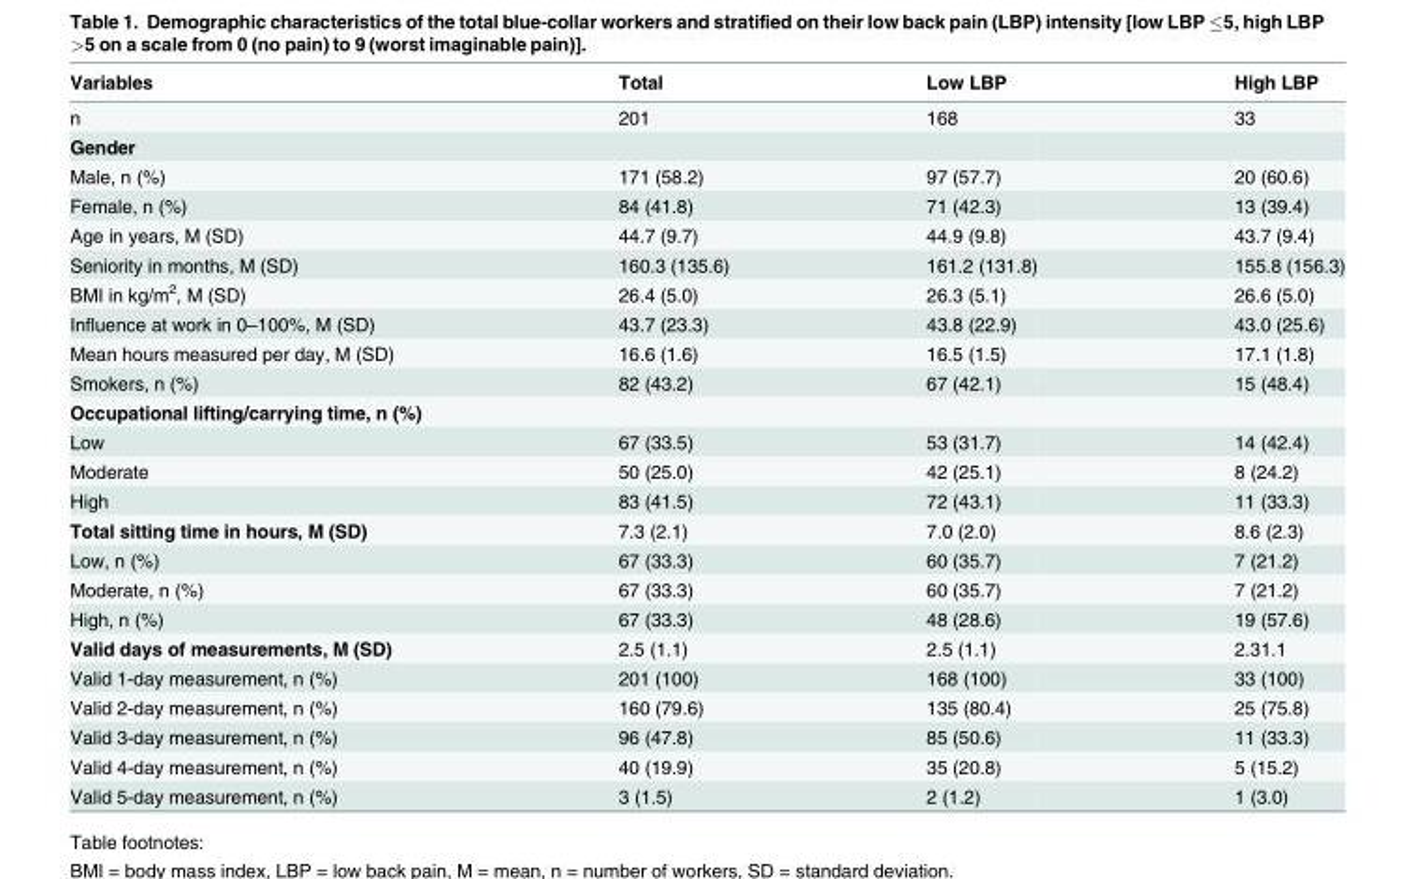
<table><thead><tr><td>Variables</td><td>Total</td><td>Low LBP</td><td>High LBP</td></tr></thead><tbody><tr><td>n</td><td>201</td><td>168</td><td>33</td></tr><tr><td colspan="4">Gender</td></tr><tr><td>Male, n (%)</td><td>171 (58.2)</td><td>97 (57.7)</td><td>20 (60.6)</td></tr><tr><td>Female, n (%)</td><td>84 (41.8)</td><td>71 (42.3)</td><td>13 (39.4)</td></tr><tr><td>Age in years, M (SD)</td><td>44.7 (9.7)</td><td>44.9 (9.8)</td><td>43.7 (9.4)</td></tr><tr><td>Seniority in months, M (SD)</td><td>160.3 (135.6)</td><td>161.2 (131.8)</td><td>155.8 (156.3)</td></tr><tr><td>BMI in kg/m<sup>2</sup>, M (SD)</td><td>26.4 (5.0)</td><td>26.3 (5.1)</td><td>26.6 (5.0)</td></tr><tr><td>Influence at work in 0–100%, M (SD)</td><td>43.7 (23.3)</td><td>43.8 (22.9)</td><td>43.0 (25.6)</td></tr><tr><td>Mean hours measured per day, M (SD)</td><td>16.6 (1.6)</td><td>16.5 (1.5)</td><td>17.1 (1.8)</td></tr><tr><td>Smokers, n (%)</td><td>82 (43.2)</td><td>67 (42.1)</td><td>15 (48.4)</td></tr><tr><td colspan="4">Occupational lifting/carrying time, n (%)</td></tr><tr><td>Low</td><td>67 (33.5)</td><td>53 (31.7)</td><td>14 (42.4)</td></tr><tr><td>Moderate</td><td>50 (25.0)</td><td>42 (25.1)</td><td>8 (24.2)</td></tr><tr><td>High</td><td>83 (41.5)</td><td>72 (43.1)</td><td>11 (33.3)</td></tr><tr><td>Total sitting time in hours, M (SD)</td><td>7.3 (2.1)</td><td>7.0 (2.0)</td><td>8.6 (2.3)</td></tr><tr><td>Low, n (%)</td><td>67 (33.3)</td><td>60 (35.7)</td><td>7 (21.2)</td></tr><tr><td>Moderate, n (%)</td><td>67 (33.3)</td><td>60 (35.7)</td><td>7 (21.2)</td></tr><tr><td>High, n (%)</td><td>67 (33.3)</td><td>48 (28.6)</td><td>19 (57.6)</td></tr><tr><td>Valid days of measurements, M (SD)</td><td>2.5 (1.1)</td><td>2.5 (1.1)</td><td>2.31.1</td></tr><tr><td>Valid 1-day measurement, n (%)</td><td>201 (100)</td><td>168 (100)</td><td>33 (100)</td></tr><tr><td>Valid 2-day measurement, n (%)</td><td>160 (79.6)</td><td>135 (80.4)</td><td>25 (75.8)</td></tr><tr><td>Valid 3-day measurement, n (%)</td><td>96 (47.8)</td><td>85 (50.6)</td><td>11 (33.3)</td></tr><tr><td>Valid 4-day measurement, n (%)</td><td>40 (19.9)</td><td>35 (20.8)</td><td>5 (15.2)</td></tr><tr><td>Valid 5-day measurement, n (%)</td><td>3 (1.5)</td><td>2 (1.2)</td><td>1 (3.0)</td></tr></tbody></table>